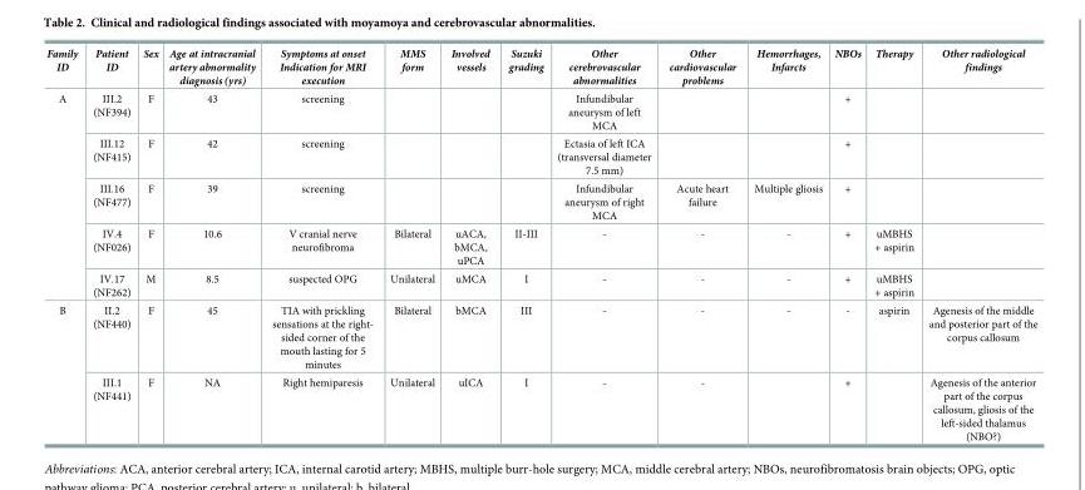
<table><thead><tr><td>Family ID</td><td>Patient ID</td><td>Sex</td><td>Age at intracranial artery abnormality diagnosis (yrs)</td><td>Symptoms at onset Indication for MRI execution</td><td>MMS form</td><td>Involved vessels</td><td>Suzuki grading</td><td>Other cerebrovascular abnormalities</td><td>Other cardiovascular problems</td><td>Hemorrhages, Infarcts</td><td>NBOs</td><td>Therapy</td><td>Other radiological findings</td></tr></thead><tbody><tr><td rowspan="5">A</td><td>III.2 (NF394)</td><td>F</td><td>43</td><td>screening</td><td></td><td></td><td></td><td>Infundibular aneurysm of left MCA</td><td></td><td></td><td>+</td><td></td><td></td></tr><tr><td>III.12 (NF415)</td><td>F</td><td>42</td><td>screening</td><td></td><td></td><td></td><td>Ectasia of left ICA (transversal diameter 7.5 mm)</td><td></td><td></td><td>+</td><td></td><td></td></tr><tr><td>III.16 (NF477)</td><td>F</td><td>39</td><td>screening</td><td></td><td></td><td></td><td>Infundibular aneurysm of right MCA</td><td>Acute heart failure</td><td>Multiple gliosis</td><td>+</td><td></td><td></td></tr><tr><td>IV.4 (NF026)</td><td>F</td><td>10.6</td><td>V cranial nerve neurofibroma</td><td>Bilateral</td><td>uACA, bMCA, uPCA</td><td>II-III</td><td>-</td><td>-</td><td>-</td><td>+</td><td>uMBHS + aspirin</td><td></td></tr><tr><td>IV.17 (NF262)</td><td>M</td><td>8.5</td><td>suspected OPG</td><td>Unilateral</td><td>uMCA</td><td>I</td><td>-</td><td>-</td><td>-</td><td>+</td><td>uMBHS + aspirin</td><td></td></tr><tr><td rowspan="2">B</td><td>II.2 (NF440)</td><td>F</td><td>45</td><td>TIA with prickling sensations at the right- sided corner of the mouth lasting for 5 minutes</td><td>Bilateral</td><td>bMCA</td><td>III</td><td>-</td><td>-</td><td>-</td><td>-</td><td>aspirin</td><td>Agenesis of the middle and posterior part of the corpus callosum</td></tr><tr><td>III.1 (NF441)</td><td>F</td><td>NA</td><td>Right hemiparesis</td><td>Unilateral</td><td>uICA</td><td>I</td><td>-</td><td>-</td><td></td><td>+</td><td></td><td>Agenesis of the anterior part of the corpus callosum, gliosis of the left-sided thalamus (NBO?)</td></tr></tbody></table>